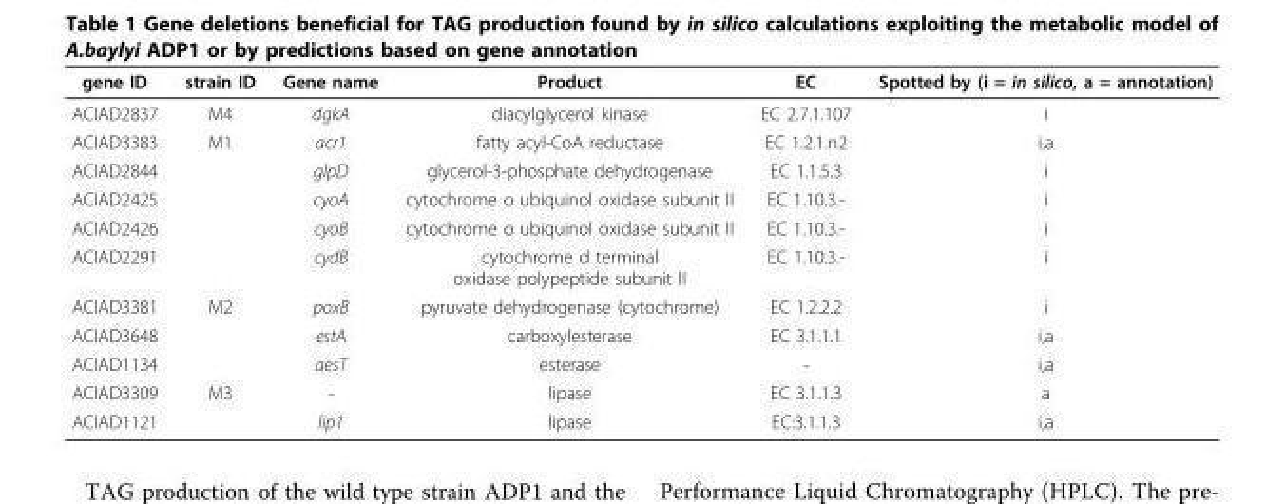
<table><thead><tr><td>gene ID</td><td>strain ID</td><td>Gene name</td><td>Product</td><td>EC</td><td>Spotted by (i = in silico, a = annotation)</td></tr></thead><tbody><tr><td>ACIAD2837</td><td>M4</td><td>dgkA</td><td>diacylglycerol kinase</td><td>EC 2.7.1.107</td><td>i</td></tr><tr><td>ACIAD3383</td><td>M1</td><td>acr1</td><td>fatty acyl-CoA reductase</td><td>EC 1.2.1.n2</td><td>i,a</td></tr><tr><td>ACIAD2844</td><td></td><td>glpD</td><td>glycerol-3-phosphate dehydrogenase</td><td>EC 1.1.5.3</td><td>i</td></tr><tr><td>ACIAD2425</td><td></td><td>cyoA</td><td>cytochrome o ubiquinol oxidase subunit II</td><td>EC 1.10.3.-</td><td>i</td></tr><tr><td>ACIAD2426</td><td></td><td>cyoB</td><td>cytochrome o ubiquinol oxidase subunit II</td><td>EC 1.10.3.-</td><td>i</td></tr><tr><td>ACIAD2291</td><td></td><td>cydB</td><td>cytochrome d terminal oxidase polypeptide subunit II</td><td>EC 1.10.3.-</td><td>i</td></tr><tr><td>ACIAD3381</td><td>M2</td><td>poxB</td><td>pyruvate dehydrogenase (cytochrome)</td><td>EC 1.2.2.2</td><td>i</td></tr><tr><td>ACIAD3648</td><td></td><td>estA</td><td>carboxylesterase</td><td>EC 3.1.1.1</td><td>i,a</td></tr><tr><td>ACIAD1134</td><td></td><td>aesT</td><td>esterase</td><td>-</td><td>i,a</td></tr><tr><td>ACIAD3309</td><td>M3</td><td>-</td><td>lipase</td><td>EC 3.1.1.3</td><td>a</td></tr><tr><td>ACIAD1121</td><td></td><td>lip1</td><td>lipase</td><td>EC:3.1.1.3</td><td>i,a</td></tr></tbody></table>